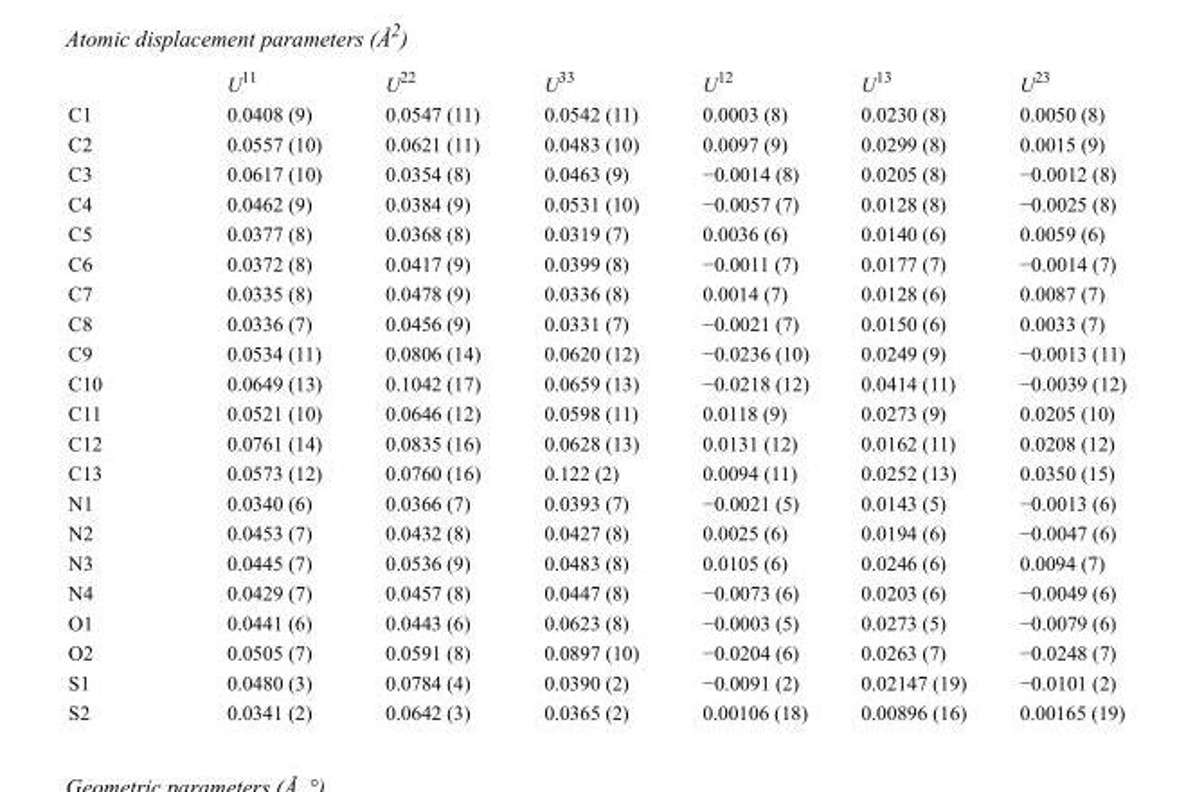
<table><thead><tr><td></td><td>U<sup>11</sup></td><td>U<sup>22</sup></td><td>U<sup>33</sup></td><td>U<sup>12</sup></td><td>U<sup>13</sup></td><td>U<sup>23</sup></td></tr></thead><tbody><tr><td>C1</td><td>0.0408 (9)</td><td>0.0547 (11)</td><td>0.0542 (11)</td><td>0.0003 (8)</td><td>0.0230 (8)</td><td>0.0050 (8)</td></tr><tr><td>C2</td><td>0.0557 (10)</td><td>0.0621 (11)</td><td>0.0483 (10)</td><td>0.0097 (9)</td><td>0.0299 (8)</td><td>0.0015 (9)</td></tr><tr><td>C3</td><td>0.0617 (10)</td><td>0.0354 (8)</td><td>0.0463 (9)</td><td>−0.0014 (8)</td><td>0.0205 (8)</td><td>−0.0012 (8)</td></tr><tr><td>C4</td><td>0.0462 (9)</td><td>0.0384 (9)</td><td>0.0531 (10)</td><td>−0.0057 (7)</td><td>0.0128 (8)</td><td>−0.0025 (8)</td></tr><tr><td>C5</td><td>0.0377 (8)</td><td>0.0368 (8)</td><td>0.0319 (7)</td><td>0.0036 (6)</td><td>0.0140 (6)</td><td>0.0059 (6)</td></tr><tr><td>C6</td><td>0.0372 (8)</td><td>0.0417 (9)</td><td>0.0399 (8)</td><td>−0.0011 (7)</td><td>0.0177 (7)</td><td>−0.0014 (7)</td></tr><tr><td>C7</td><td>0.0335 (8)</td><td>0.0478 (9)</td><td>0.0336 (8)</td><td>0.0014 (7)</td><td>0.0128 (6)</td><td>0.0087 (7)</td></tr><tr><td>C8</td><td>0.0336 (7)</td><td>0.0456 (9)</td><td>0.0331 (7)</td><td>−0.0021 (7)</td><td>0.0150 (6)</td><td>0.0033 (7)</td></tr><tr><td>C9</td><td>0.0534 (11)</td><td>0.0806 (14)</td><td>0.0620 (12)</td><td>−0.0236 (10)</td><td>0.0249 (9)</td><td>−0.0013 (11)</td></tr><tr><td>C10</td><td>0.0649 (13)</td><td>0.1042 (17)</td><td>0.0659 (13)</td><td>−0.0218 (12)</td><td>0.0414 (11)</td><td>−0.0039 (12)</td></tr><tr><td>C11</td><td>0.0521 (10)</td><td>0.0646 (12)</td><td>0.0598 (11)</td><td>0.0118 (9)</td><td>0.0273 (9)</td><td>0.0205 (10)</td></tr><tr><td>C12</td><td>0.0761 (14)</td><td>0.0835 (16)</td><td>0.0628 (13)</td><td>0.0131 (12)</td><td>0.0162 (11)</td><td>0.0208 (12)</td></tr><tr><td>C13</td><td>0.0573 (12)</td><td>0.0760 (16)</td><td>0.122 (2)</td><td>0.0094 (11)</td><td>0.0252 (13)</td><td>0.0350 (15)</td></tr><tr><td>N1</td><td>0.0340 (6)</td><td>0.0366 (7)</td><td>0.0393 (7)</td><td>−0.0021 (5)</td><td>0.0143 (5)</td><td>−0.0013 (6)</td></tr><tr><td>N2</td><td>0.0453 (7)</td><td>0.0432 (8)</td><td>0.0427 (8)</td><td>0.0025 (6)</td><td>0.0194 (6)</td><td>−0.0047 (6)</td></tr><tr><td>N3</td><td>0.0445 (7)</td><td>0.0536 (9)</td><td>0.0483 (8)</td><td>0.0105 (6)</td><td>0.0246 (6)</td><td>0.0094 (7)</td></tr><tr><td>N4</td><td>0.0429 (7)</td><td>0.0457 (8)</td><td>0.0447 (8)</td><td>−0.0073 (6)</td><td>0.0203 (6)</td><td>−0.0049 (6)</td></tr><tr><td>O1</td><td>0.0441 (6)</td><td>0.0443 (6)</td><td>0.0623 (8)</td><td>−0.0003 (5)</td><td>0.0273 (5)</td><td>−0.0079 (6)</td></tr><tr><td>O2</td><td>0.0505 (7)</td><td>0.0591 (8)</td><td>0.0897 (10)</td><td>−0.0204 (6)</td><td>0.0263 (7)</td><td>−0.0248 (7)</td></tr><tr><td>S1</td><td>0.0480 (3)</td><td>0.0784 (4)</td><td>0.0390 (2)</td><td>−0.0091 (2)</td><td>0.02147 (19)</td><td>−0.0101 (2)</td></tr><tr><td>S2</td><td>0.0341 (2)</td><td>0.0642 (3)</td><td>0.0365 (2)</td><td>0.00106 (18)</td><td>0.00896 (16)</td><td>0.00165 (19)</td></tr></tbody></table>